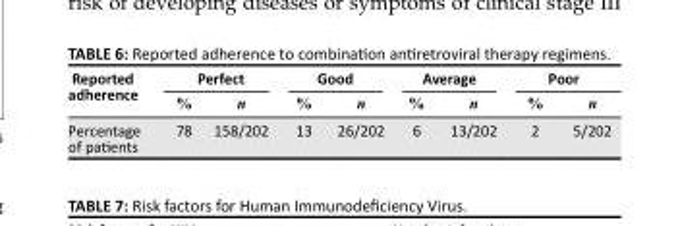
<table><thead><tr><td rowspan="2">Reported adherence</td><td colspan="2">Perfect</td><td colspan="2">Good</td><td colspan="2">Average</td><td colspan="2">Poor</td></tr><tr><td>%</td><td>n</td><td>%</td><td>n</td><td>%</td><td>n</td><td>%</td><td>n</td></tr></thead><tbody><tr><td>Percentage of patients</td><td>78</td><td>158/202</td><td>13</td><td>26/202</td><td>6</td><td>13/202</td><td>2</td><td>5/202</td></tr></tbody></table>